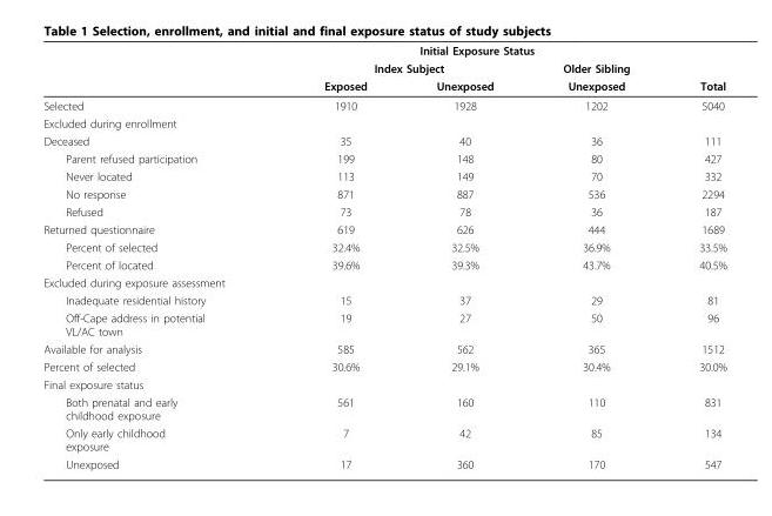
<table><thead><tr><td rowspan="3"></td><td colspan="3">Initial Exposure Status</td><td rowspan="3">Total</td></tr><tr><td colspan="2">Index Subject</td><td rowspan="2">Older Sibling Unexposed</td></tr><tr><td>Exposed</td><td>Unexposed</td></tr></thead><tbody><tr><td>Selected</td><td>1910</td><td>1928</td><td>1202</td><td>5040</td></tr><tr><td colspan="5">Excluded during enrollment</td></tr><tr><td>Deceased</td><td>35</td><td>40</td><td>36</td><td>111</td></tr><tr><td>Parent refused participation</td><td>199</td><td>148</td><td>80</td><td>427</td></tr><tr><td>Never located</td><td>113</td><td>149</td><td>70</td><td>332</td></tr><tr><td>No response</td><td>871</td><td>887</td><td>536</td><td>2294</td></tr><tr><td>Refused</td><td>73</td><td>78</td><td>36</td><td>187</td></tr><tr><td>Returned questionnaire</td><td>619</td><td>626</td><td>444</td><td>1689</td></tr><tr><td>Percent of selected</td><td>32.4%</td><td>32.5%</td><td>36.9%</td><td>33.5%</td></tr><tr><td>Percent of located</td><td>39.6%</td><td>39.3%</td><td>43.7%</td><td>40.5%</td></tr><tr><td colspan="5">Excluded during exposure assessment</td></tr><tr><td>Inadequate residential history</td><td>15</td><td>37</td><td>29</td><td>81</td></tr><tr><td>Off-Cape address in potential VL/AC town</td><td>19</td><td>27</td><td>50</td><td>96</td></tr><tr><td>Available for analysis</td><td>585</td><td>562</td><td>365</td><td>1512</td></tr><tr><td>Percent of selected</td><td>30.6%</td><td>29.1%</td><td>30.4%</td><td>30.0%</td></tr><tr><td colspan="5">Final exposure status</td></tr><tr><td>Both prenatal and early childhood exposure</td><td>561</td><td>160</td><td>110</td><td>831</td></tr><tr><td>Only early childhood exposure</td><td>7</td><td>42</td><td>85</td><td>134</td></tr><tr><td>Unexposed</td><td>17</td><td>360</td><td>170</td><td>547</td></tr></tbody></table>